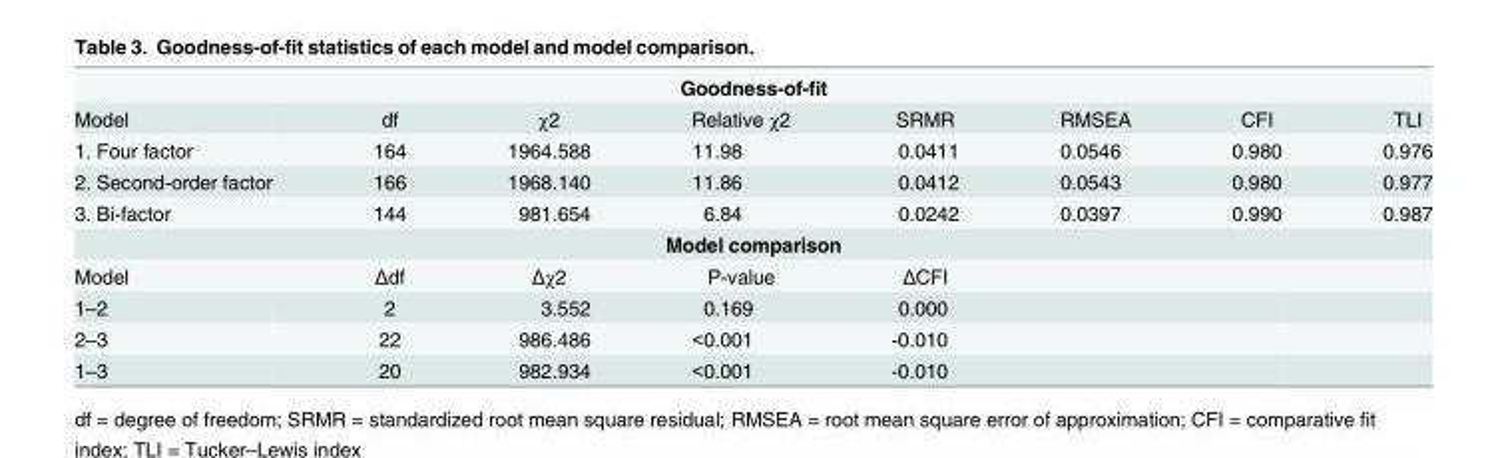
<table><tbody><tr><td colspan="8">Goodness-of-fit</td></tr><tr><td>Model</td><td>df</td><td>χ2</td><td>Relative χ2</td><td>SRMR</td><td>RMSEA</td><td>CFI</td><td>TLI</td></tr><tr><td>1. Four factor</td><td>164</td><td>1964.588</td><td>11.98</td><td>0.0411</td><td>0.0546</td><td>0.980</td><td>0.976</td></tr><tr><td>2. Second-order factor</td><td>166</td><td>1968.140</td><td>11.86</td><td>0.0412</td><td>0.0543</td><td>0.980</td><td>0.977</td></tr><tr><td>3. Bi-factor</td><td>144</td><td>981.654</td><td>6.84</td><td>0.0242</td><td>0.0397</td><td>0.990</td><td>0.987</td></tr><tr><td colspan="8">Model comparison</td></tr><tr><td>Model</td><td>Δdf</td><td>Δχ2</td><td>P-value</td><td>ΔCFI</td><td></td><td></td><td></td></tr><tr><td>1–2</td><td>2</td><td>3.552</td><td>0.169</td><td>0.000</td><td></td><td></td><td></td></tr><tr><td>2–3</td><td>22</td><td>986.486</td><td>&lt;0.001</td><td>-0.010</td><td></td><td></td><td></td></tr><tr><td>1–3</td><td>20</td><td>982.934</td><td>&lt;0.001</td><td>-0.010</td><td></td><td></td><td></td></tr></tbody></table>